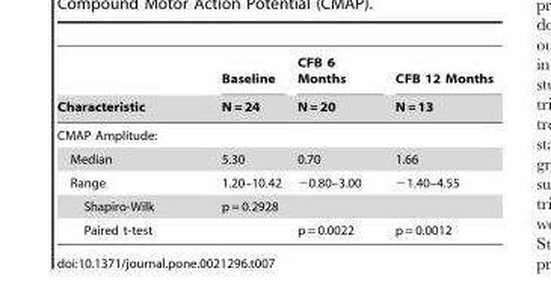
<table><thead><tr><td rowspan="2">Characteristic</td><td rowspan="2">Baseline N = 24</td><td rowspan="2">CFB 6 Months N = 20</td><td rowspan="2">CFB 12 Months N = 13</td></tr><tr></tr></thead><tbody><tr><td colspan="4">CMAP Amplitude:</td></tr><tr><td>Median</td><td>5.30</td><td>0.70</td><td>1.66</td></tr><tr><td>Range</td><td>1.20–10.42</td><td>−0.80–3.00</td><td>−1.40–4.55</td></tr><tr><td>Shapiro-Wilk</td><td>p = 0.2928</td><td></td><td></td></tr><tr><td>Paired t-test</td><td></td><td>p = 0.0022</td><td>p = 0.0012</td></tr></tbody></table>